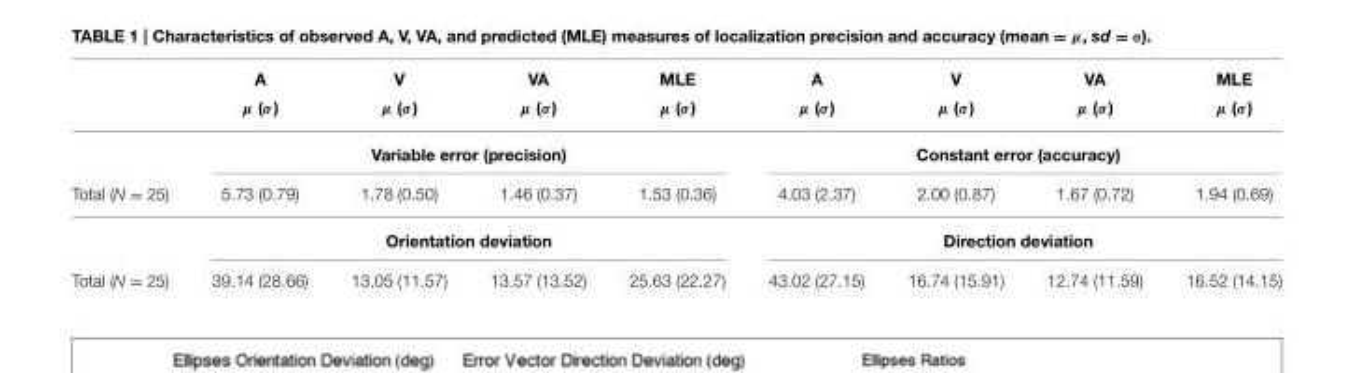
<table><thead><tr><td rowspan="2"></td><td rowspan="2">A µ (σ)</td><td rowspan="2">V µ (σ)</td><td rowspan="2">VA µ (σ)</td><td rowspan="2">MLE µ (σ)</td><td rowspan="2">A µ (σ)</td><td rowspan="2">V µ (σ)</td><td rowspan="2">VA µ (σ)</td><td rowspan="2">MLE µ (σ)</td></tr><tr></tr></thead><tbody><tr><td></td><td colspan="4">Variable error (precision)</td><td colspan="4">Constant error (accuracy)</td></tr><tr><td rowspan="2">Total (N = 25)</td><td>5.73 (0.79)</td><td>1.78 (0.50)</td><td>1.46 (0.37)</td><td>1.53 (0.36)</td><td>4.03 (2.37)</td><td>2.00 (0.87)</td><td>1.67 (0.72)</td><td>1.94 (0.69)</td></tr><tr><td colspan="4">Orientation deviation</td><td colspan="4">Direction deviation</td></tr><tr><td>Total (N = 25)</td><td>39.14 (28.66)</td><td>13.05 (11.57)</td><td>13.57 (13.52)</td><td>25.63 (22.27)</td><td>43.02 (27.15)</td><td>16.74 (15.91)</td><td>12.74 (11.59)</td><td>16.52 (14.15)</td></tr></tbody></table>